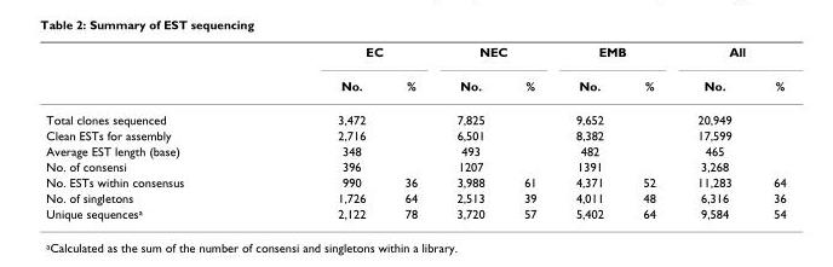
<table><thead><tr><td rowspan="2"></td><td colspan="2">EC</td><td colspan="2">NEC</td><td colspan="2">EMB</td><td colspan="2">All</td></tr><tr><td>No.</td><td>%</td><td>No.</td><td>%</td><td>No.</td><td>%</td><td>No.</td><td>%</td></tr></thead><tbody><tr><td>Total clones sequenced</td><td>3,472</td><td></td><td>7,825</td><td></td><td>9,652</td><td></td><td>20,949</td><td></td></tr><tr><td>Clean ESTs for assembly</td><td>2,716</td><td></td><td>6,501</td><td></td><td>8,382</td><td></td><td>17,599</td><td></td></tr><tr><td>Average EST length (base)</td><td>348</td><td></td><td>493</td><td></td><td>482</td><td></td><td>465</td><td></td></tr><tr><td>No. of consensi</td><td>396</td><td></td><td>1207</td><td></td><td>1391</td><td></td><td>3,268</td><td></td></tr><tr><td>No. ESTs within consensus</td><td>990</td><td>36</td><td>3,988</td><td>61</td><td>4,371</td><td>52</td><td>11,283</td><td>64</td></tr><tr><td>No. of singletons</td><td>1,726</td><td>64</td><td>2,513</td><td>39</td><td>4,011</td><td>48</td><td>6,316</td><td>36</td></tr><tr><td>Unique sequences<sup>a</sup></td><td>2,122</td><td>78</td><td>3,720</td><td>57</td><td>5,402</td><td>64</td><td>9,584</td><td>54</td></tr></tbody></table>